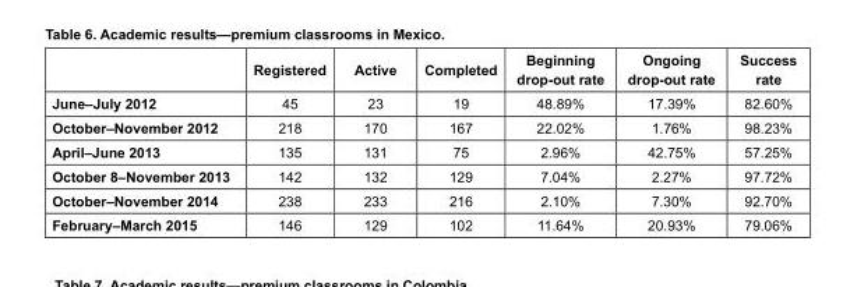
<table><thead><tr><td></td><td>Registered</td><td>Active</td><td>Completed</td><td>Beginning drop-out rate</td><td>Ongoing drop-out rate</td><td>Success rate</td></tr></thead><tbody><tr><td>June–July 2012</td><td>45</td><td>23</td><td>19</td><td>48.89%</td><td>17.39%</td><td>82.60%</td></tr><tr><td>October–November 2012</td><td>218</td><td>170</td><td>167</td><td>22.02%</td><td>1.76%</td><td>98.23%</td></tr><tr><td>April–June 2013</td><td>135</td><td>131</td><td>75</td><td>2.96%</td><td>42.75%</td><td>57.25%</td></tr><tr><td>October 8–November 2013</td><td>142</td><td>132</td><td>129</td><td>7.04%</td><td>2.27%</td><td>97.72%</td></tr><tr><td>October–November 2014</td><td>238</td><td>233</td><td>216</td><td>2.10%</td><td>7.30%</td><td>92.70%</td></tr><tr><td>February–March 2015</td><td>146</td><td>129</td><td>102</td><td>11.64%</td><td>20.93%</td><td>79.06%</td></tr></tbody></table>